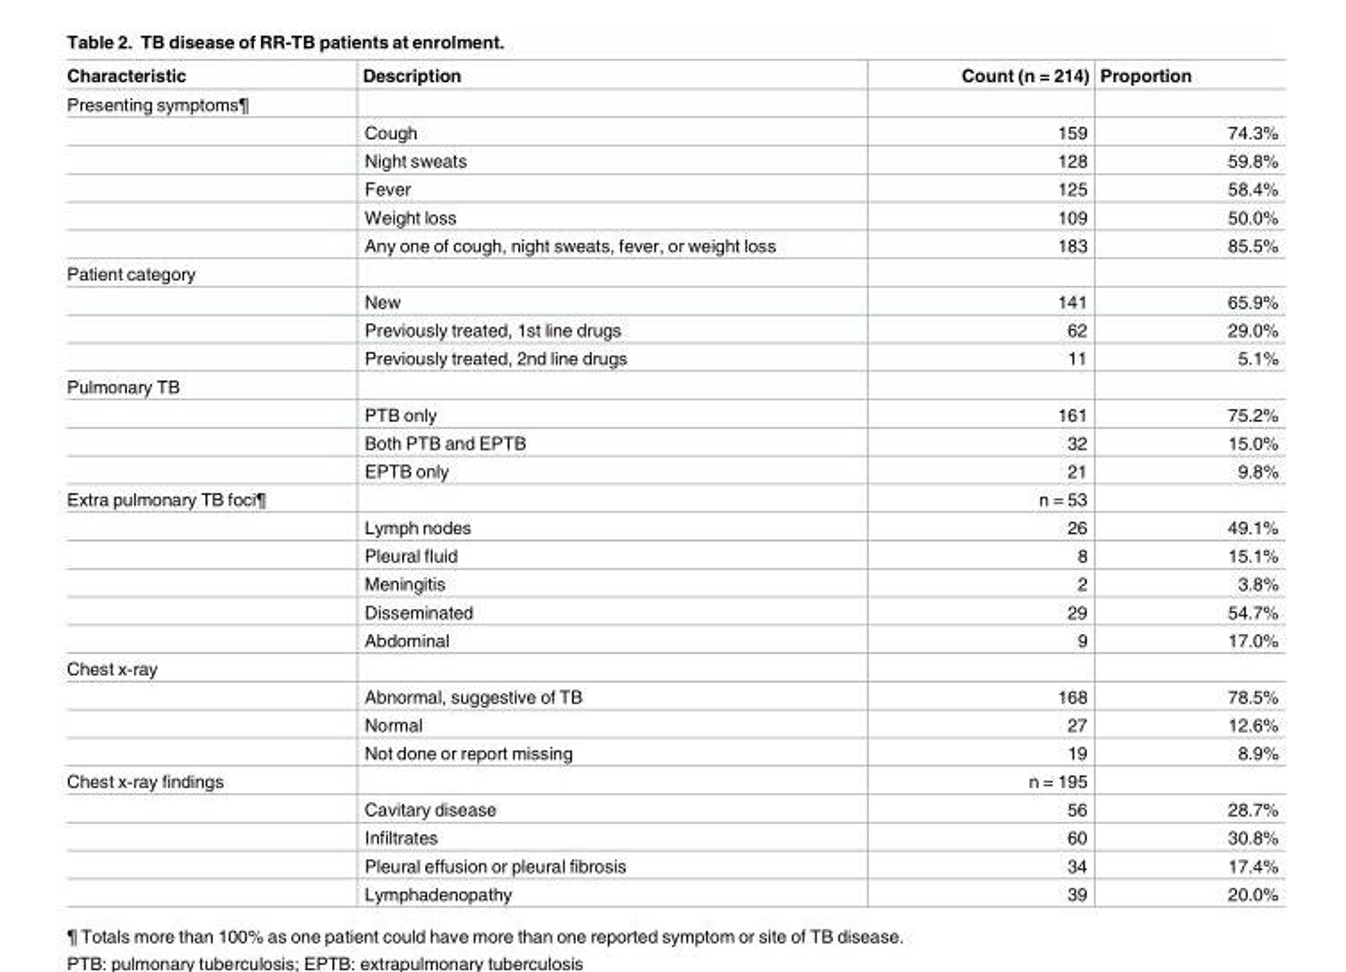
<table><thead><tr><td>Characteristic</td><td>Description</td><td>Count (n = 214)</td><td>Proportion</td></tr></thead><tbody><tr><td colspan="4">Presenting symptoms¶</td></tr><tr><td></td><td>Cough</td><td>159</td><td>74.3%</td></tr><tr><td></td><td>Night sweats</td><td>128</td><td>59.8%</td></tr><tr><td></td><td>Fever</td><td>125</td><td>58.4%</td></tr><tr><td></td><td>Weight loss</td><td>109</td><td>50.0%</td></tr><tr><td></td><td>Any one of cough, night sweats, fever, or weight loss</td><td>183</td><td>85.5%</td></tr><tr><td colspan="4">Patient category</td></tr><tr><td></td><td>New</td><td>141</td><td>65.9%</td></tr><tr><td></td><td>Previously treated, 1st line drugs</td><td>62</td><td>29.0%</td></tr><tr><td></td><td>Previously treated, 2nd line drugs</td><td>11</td><td>5.1%</td></tr><tr><td colspan="4">Pulmonary TB</td></tr><tr><td></td><td>PTB only</td><td>161</td><td>75.2%</td></tr><tr><td></td><td>Both PTB and EPTB</td><td>32</td><td>15.0%</td></tr><tr><td></td><td>EPTB only</td><td>21</td><td>9.8%</td></tr><tr><td rowspan="6">Extra pulmonary TB foci¶</td><td></td><td>n = 53</td><td></td></tr><tr><td>Lymph nodes</td><td>26</td><td>49.1%</td></tr><tr><td>Pleural fluid</td><td>8</td><td>15.1%</td></tr><tr><td>Meningitis</td><td>2</td><td>3.8%</td></tr><tr><td>Disseminated</td><td>29</td><td>54.7%</td></tr><tr><td>Abdominal</td><td>9</td><td>17.0%</td></tr><tr><td colspan="4">Chest x-ray</td></tr><tr><td></td><td>Abnormal, suggestive of TB</td><td>168</td><td>78.5%</td></tr><tr><td></td><td>Normal</td><td>27</td><td>12.6%</td></tr><tr><td></td><td>Not done or report missing</td><td>19</td><td>8.9%</td></tr><tr><td rowspan="5">Chest x-ray findings</td><td></td><td>n = 195</td><td></td></tr><tr><td>Cavitary disease</td><td>56</td><td>28.7%</td></tr><tr><td>Infiltrates</td><td>60</td><td>30.8%</td></tr><tr><td>Pleural effusion or pleural fibrosis</td><td>34</td><td>17.4%</td></tr><tr><td>Lymphadenopathy</td><td>39</td><td>20.0%</td></tr></tbody></table>